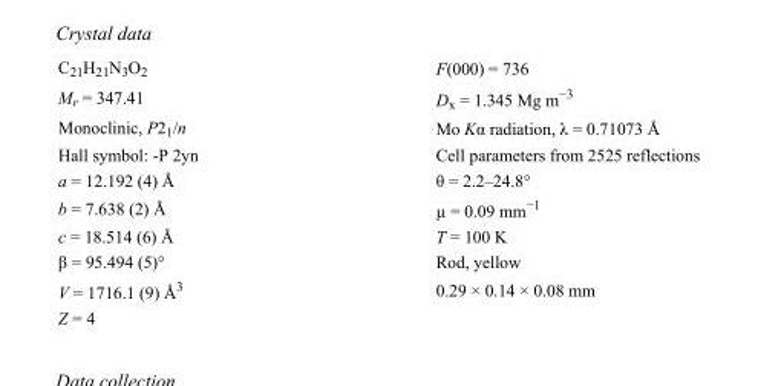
<table><tbody><tr><td>C<sub>21</sub>H<sub>21</sub>N<sub>3</sub>O<sub>2</sub></td><td>F(000) = 736</td></tr><tr><td>M<sub>r</sub> = 347.41</td><td>D<sub>x</sub> = 1.345 Mg m<sup>−3</sup></td></tr><tr><td>Monoclinic, P2<sub>1</sub>/n</td><td>Mo Kα radiation, λ = 0.71073 Å</td></tr><tr><td>Hall symbol: -P 2yn</td><td>Cell parameters from 2525 reflections</td></tr><tr><td>a = 12.192 (4) Å</td><td>θ = 2.2–24.8°</td></tr><tr><td>b = 7.638 (2) Å</td><td>µ = 0.09 mm<sup>−1</sup></td></tr><tr><td>c = 18.514 (6) Å</td><td>T = 100 K</td></tr><tr><td>β = 95.494 (5)°</td><td>Rod, yellow</td></tr><tr><td>V = 1716.1 (9) Å<sup>3</sup></td><td>0.29 × 0.14 × 0.08 mm</td></tr><tr><td>Z = 4</td><td></td></tr></tbody></table>